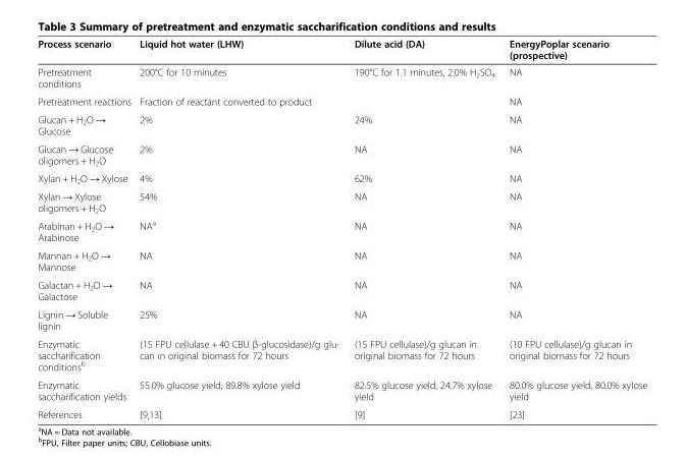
<table><thead><tr><td>Process scenario</td><td>Liquid hot water (LHW)</td><td>Dilute acid (DA)</td><td>EnergyPoplar scenario (prospective)</td></tr></thead><tbody><tr><td>Pretreatment conditions</td><td>200°C for 10 minutes</td><td>190°C for 1.1 minutes, 2.0% H<sub>2</sub>SO<sub>4</sub></td><td>NA</td></tr><tr><td>Pretreatment reactions</td><td>Fraction of reactant converted to product</td><td></td><td>NA</td></tr><tr><td>Glucan + H<sub>2</sub>O → Glucose</td><td>2%</td><td>24%</td><td>NA</td></tr><tr><td>Glucan → Glucose oligomers + H<sub>2</sub>O</td><td>2%</td><td>NA</td><td>NA</td></tr><tr><td>Xylan + H<sub>2</sub>O → Xylose</td><td>4%</td><td>62%</td><td>NA</td></tr><tr><td>Xylan → Xylose oligomers + H<sub>2</sub>O</td><td>54%</td><td>NA</td><td>NA</td></tr><tr><td>Arabinan + H<sub>2</sub>O → Arabinose</td><td>NA<sup>a</sup></td><td>NA</td><td>NA</td></tr><tr><td>Mannan + H<sub>2</sub>O → Mannose</td><td>NA</td><td>NA</td><td>NA</td></tr><tr><td>Galactan + H<sub>2</sub>O → Galactose</td><td>NA</td><td>NA</td><td>NA</td></tr><tr><td>Lignin → Soluble lignin</td><td>25%</td><td>NA</td><td>NA</td></tr><tr><td>Enzymatic saccharification conditions<sup>b</sup></td><td>(15 FPU cellulase + 40 CBU β-glucosidase)/g glu- can in original biomass for 72 hours</td><td>(15 FPU cellulase)/g glucan in original biomass for 72 hours</td><td>(10 FPU cellulase)/g glucan in original biomass for 72 hours</td></tr><tr><td>Enzymatic saccharification yields</td><td>55.0% glucose yield, 89.8% xylose yield</td><td>82.5% glucose yield, 24.7% xylose yield</td><td>80.0% glucose yield, 80.0% xylose yield</td></tr><tr><td>References</td><td>[9,13]</td><td>[9]</td><td>[23]</td></tr></tbody></table>